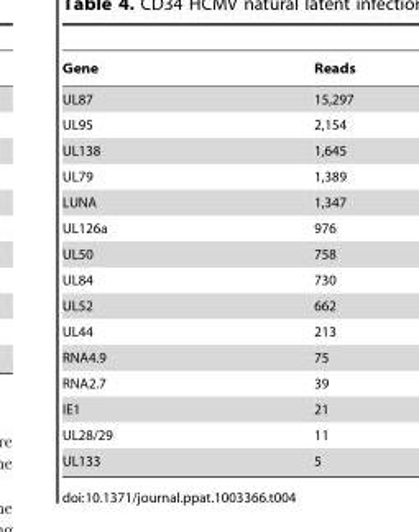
<table><thead><tr><td>Gene</td><td>Reads</td></tr></thead><tbody><tr><td>UL87</td><td>15,297</td></tr><tr><td>UL95</td><td>2,154</td></tr><tr><td>UL138</td><td>1,645</td></tr><tr><td>UL79</td><td>1,389</td></tr><tr><td>LUNA</td><td>1,347</td></tr><tr><td>UL126a</td><td>976</td></tr><tr><td>UL50</td><td>758</td></tr><tr><td>UL84</td><td>730</td></tr><tr><td>UL52</td><td>662</td></tr><tr><td>UL44</td><td>213</td></tr><tr><td>RNA4.9</td><td>75</td></tr><tr><td>RNA2.7</td><td>39</td></tr><tr><td>IE1</td><td>21</td></tr><tr><td>UL28/29</td><td>11</td></tr><tr><td>UL133</td><td>5</td></tr></tbody></table>